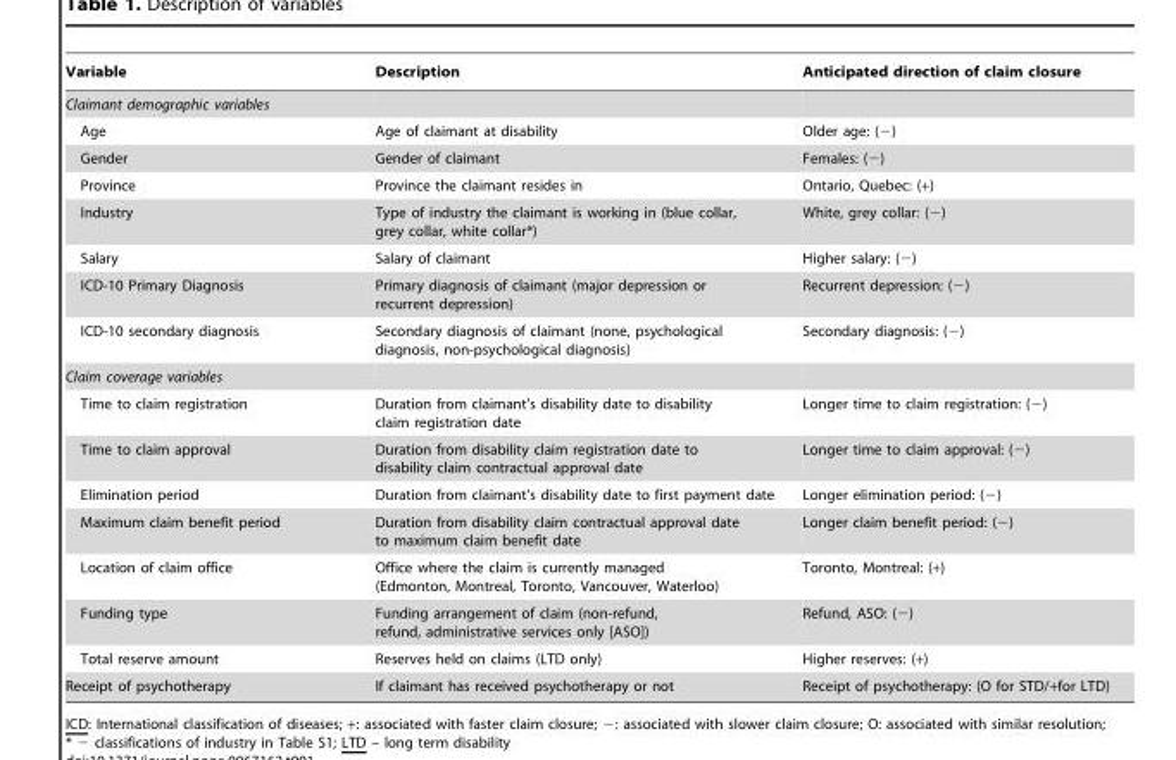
<table><thead><tr><td>Variable</td><td>Description</td><td>Anticipated direction of claim closure</td></tr></thead><tbody><tr><td colspan="3">Claimant demographic variables</td></tr><tr><td>Age</td><td>Age of claimant at disability</td><td>Older age: (−)</td></tr><tr><td>Gender</td><td>Gender of claimant</td><td>Females: (−)</td></tr><tr><td>Province</td><td>Province the claimant resides in</td><td>Ontario, Quebec: (+)</td></tr><tr><td>Industry</td><td>Type of industry the claimant is working in (blue collar, grey collar, white collar*)</td><td>White, grey collar: (−)</td></tr><tr><td>Salary</td><td>Salary of claimant</td><td>Higher salary: (−)</td></tr><tr><td>ICD-10 Primary Diagnosis</td><td>Primary diagnosis of claimant (major depression or recurrent depression)</td><td>Recurrent depression: (−)</td></tr><tr><td>ICD-10 secondary diagnosis</td><td>Secondary diagnosis of claimant (none, psychological diagnosis, non-psychological diagnosis)</td><td>Secondary diagnosis: (−)</td></tr><tr><td colspan="3">Claim coverage variables</td></tr><tr><td>Time to claim registration</td><td>Duration from claimant’s disability date to disability claim registration date</td><td>Longer time to claim registration: (−)</td></tr><tr><td>Time to claim approval</td><td>Duration from disability claim registration date to disability claim contractual approval date</td><td>Longer time to claim approval: (−)</td></tr><tr><td>Elimination period</td><td>Duration from claimant’s disability date to first payment date</td><td>Longer elimination period: (−)</td></tr><tr><td>Maximum claim benefit period</td><td>Duration from disability claim contractual approval date to maximum claim benefit date</td><td>Longer claim benefit period: (−)</td></tr><tr><td>Location of claim office</td><td>Office where the claim is currently managed (Edmonton, Montreal, Toronto, Vancouver, Waterloo)</td><td>Toronto, Montreal: (+)</td></tr><tr><td>Funding type</td><td>Funding arrangement of claim (non-refund, refund, administrative services only [ASO])</td><td>Refund, ASO: (−)</td></tr><tr><td>Total reserve amount</td><td>Reserves held on claims (LTD only)</td><td>Higher reserves: (+)</td></tr><tr><td>Receipt of psychotherapy</td><td>If claimant has received psychotherapy or not</td><td>Receipt of psychotherapy: (O for STD/+for LTD)</td></tr></tbody></table>